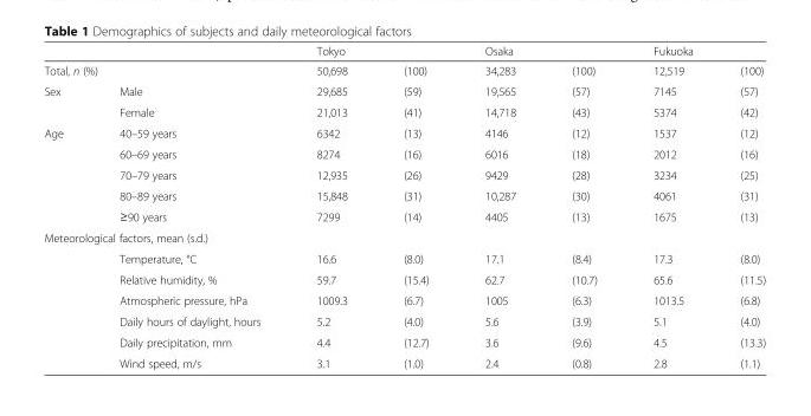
<table><thead><tr><td></td><td></td><td colspan="2">Tokyo</td><td colspan="2">Osaka</td><td colspan="2">Fukuoka</td></tr><tr><td colspan="2">Total, n (%)</td><td>50,698</td><td>(100)</td><td>34,283</td><td>(100)</td><td>12,519</td><td>(100)</td></tr></thead><tbody><tr><td rowspan="2">Sex</td><td>Male</td><td>29,685</td><td>(59)</td><td>19,565</td><td>(57)</td><td>7145</td><td>(57)</td></tr><tr><td>Female</td><td>21,013</td><td>(41)</td><td>14,718</td><td>(43)</td><td>5374</td><td>(42)</td></tr><tr><td rowspan="5">Age</td><td>40–59 years</td><td>6342</td><td>(13)</td><td>4146</td><td>(12)</td><td>1537</td><td>(12)</td></tr><tr><td>60–69 years</td><td>8274</td><td>(16)</td><td>6016</td><td>(18)</td><td>2012</td><td>(16)</td></tr><tr><td>70–79 years</td><td>12,935</td><td>(26)</td><td>9429</td><td>(28)</td><td>3234</td><td>(25)</td></tr><tr><td>80–89 years</td><td>15,848</td><td>(31)</td><td>10,287</td><td>(30)</td><td>4061</td><td>(31)</td></tr><tr><td>≥90 years</td><td>7299</td><td>(14)</td><td>4405</td><td>(13)</td><td>1675</td><td>(13)</td></tr><tr><td colspan="8">Meteorological factors, mean (s.d.)</td></tr><tr><td rowspan="6"></td><td>Temperature, °C</td><td>16.6</td><td>(8.0)</td><td>17.1</td><td>(8.4)</td><td>17.3</td><td>(8.0)</td></tr><tr><td>Relative humidity, %</td><td>59.7</td><td>(15.4)</td><td>62.7</td><td>(10.7)</td><td>65.6</td><td>(11.5)</td></tr><tr><td>Atmospheric pressure, hPa</td><td>1009.3</td><td>(6.7)</td><td>1005</td><td>(6.3)</td><td>1013.5</td><td>(6.8)</td></tr><tr><td>Daily hours of daylight, hours</td><td>5.2</td><td>(4.0)</td><td>5.6</td><td>(3.9)</td><td>5.1</td><td>(4.0)</td></tr><tr><td>Daily precipitation, mm</td><td>4.4</td><td>(12.7)</td><td>3.6</td><td>(9.6)</td><td>4.5</td><td>(13.3)</td></tr><tr><td>Wind speed, m/s</td><td>3.1</td><td>(1.0)</td><td>2.4</td><td>(0.8)</td><td>2.8</td><td>(1.1)</td></tr></tbody></table>